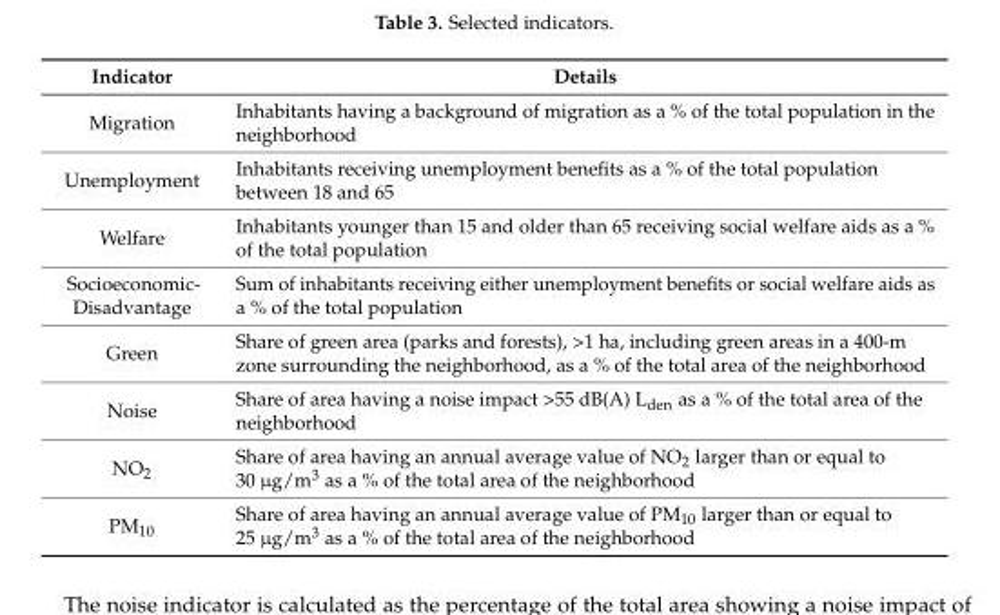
<table><thead><tr><td>Indicator</td><td>Details</td></tr></thead><tbody><tr><td>Migration</td><td>Inhabitants having a background of migration as a % of the total population in the neighborhood</td></tr><tr><td>Unemployment</td><td>Inhabitants receiving unemployment benefits as a % of the total population between 18 and 65</td></tr><tr><td>Welfare</td><td>Inhabitants younger than 15 and older than 65 receiving social welfare aids as a % of the total population</td></tr><tr><td>Socioeconomic- Disadvantage</td><td>Sum of inhabitants receiving either unemployment benefits or social welfare aids as a % of the total population</td></tr><tr><td>Green</td><td>Share of green area (parks and forests), &gt;1 ha, including green areas in a 400-m zone surrounding the neighborhood, as a % of the total area of the neighborhood</td></tr><tr><td>Noise</td><td>Share of area having a noise impact &gt;55 dB(A) L<sub>den</sub> as a % of the total area of the neighborhood</td></tr><tr><td>NO<sub>2</sub></td><td>Share of area having an annual average value of NO<sub>2</sub> larger than or equal to 30 µg/m<sup>3</sup> as a % of the total area of the neighborhood</td></tr><tr><td>PM<sub>10</sub></td><td>Share of area having an annual average value of PM<sub>10</sub> larger than or equal to 25 µg/m<sup>3</sup> as a % of the total area of the neighborhood</td></tr></tbody></table>